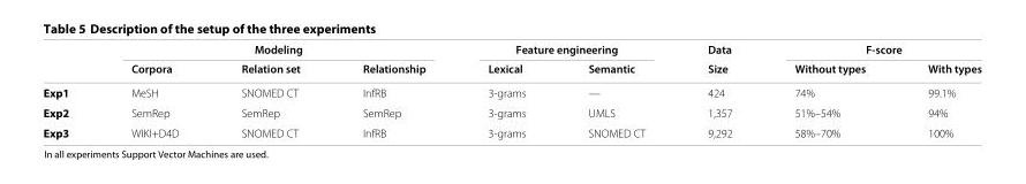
<table><thead><tr><td rowspan="2"></td><td colspan="3">Modeling</td><td colspan="2">Feature engineering</td><td rowspan="2">Data Size</td><td colspan="2">F-score</td></tr><tr><td>Corpora</td><td>Relation set</td><td>Relationship</td><td>Lexical</td><td>Semantic</td><td>Without types</td><td>With types</td></tr></thead><tbody><tr><td>Exp1</td><td>MeSH</td><td>SNOMED CT</td><td>InfRB</td><td>3-grams</td><td>—</td><td>424</td><td>74%</td><td>99.1%</td></tr><tr><td>Exp2</td><td>SemRep</td><td>SemRep</td><td>SemRep</td><td>3-grams</td><td>UMLS</td><td>1,357</td><td>51%–54%</td><td>94%</td></tr><tr><td>Exp3</td><td>WIKI+D4D</td><td>SNOMED CT</td><td>InfRB</td><td>3-grams</td><td>SNOMED CT</td><td>9,292</td><td>58%–70%</td><td>100%</td></tr></tbody></table>